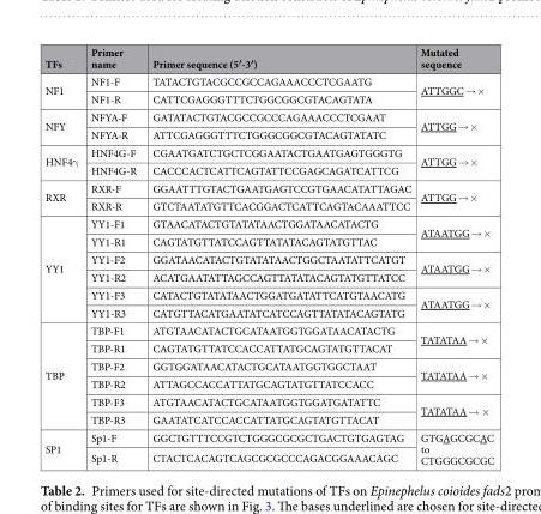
<table><thead><tr><td>TFs</td><td>Primer name</td><td>Primer sequence (5′-3′)</td><td>Mutated sequence</td></tr></thead><tbody><tr><td rowspan="2">NF1</td><td>NF1-F</td><td>TATACTGTACGCCGCCAGAAACCCTCGAATG</td><td rowspan="2">ATTGGC → ×</td></tr><tr><td>NF1-R</td><td>CATTCGAGGGTTTCTGGCGGCGTACAGTATA</td></tr><tr><td rowspan="2">NFY</td><td>NFYA-F</td><td>GATATACTGTACGCCGCCCAGAAACCCTCGAAT</td><td rowspan="2">ATTGG → ×</td></tr><tr><td>NFYA-R</td><td>ATTCGAGGGTTTCTGGGCGGCGTACAGTATATC</td></tr><tr><td rowspan="2">HNF4γ</td><td>HNF4G-F</td><td>CGAATGATCTGCTCGGAATACTGAATGAGTGGGTG</td><td rowspan="2">ATTGG → ×</td></tr><tr><td>HNF4G-R</td><td>CACCCACTCATTCAGTATTCCGAGCAGATCATTCG</td></tr><tr><td rowspan="2">RXR</td><td>RXR-F</td><td>GGAATTTGTACTGAATGAGTCCGTGAACATATTAGAC</td><td rowspan="2">ATTGG → ×</td></tr><tr><td>RXR-R</td><td>GTCTAATATGTTCACGGACTCATTCAGTACAAATTCC</td></tr><tr><td rowspan="6">YY1</td><td>YY1-F1</td><td>GTAACATACTGTATATAACTGGATAACATACTG</td><td rowspan="2">ATAATGG → ×</td></tr><tr><td>YY1-R1</td><td>CAGTATGTTATCCAGTTATATACAGTATGTTAC</td></tr><tr><td>YY1-F2</td><td>GGATAACATACTGTATATAACTGGCTAATATTCATGT</td><td rowspan="2">ATAATGG → ×</td></tr><tr><td>YY1-R2</td><td>ACATGAATATTAGCCAGTTATATACAGTATGTTATCC</td></tr><tr><td>YY1-F3</td><td>CATACTGTATATAACTGGATGATATTCATGTAACATG</td><td rowspan="2">ATAATGG → ×</td></tr><tr><td>YY1-R3</td><td>CATGTTACATGAATATCATCCAGTTATATACAGTATG</td></tr><tr><td rowspan="6">TBP</td><td>TBP-F1</td><td>ATGTAACATACTGCATAATGGTGGATAACATACTG</td><td rowspan="2">TATATAA → ×</td></tr><tr><td>TBP-R1</td><td>CAGTATGTTATCCACCATTATGCAGTATGTTACAT</td></tr><tr><td>TBP-F2</td><td>GGTGGATAACATACTGCATAATGGTGGCTAAT</td><td rowspan="2">TATATAA → ×</td></tr><tr><td>TBP-R2</td><td>ATTAGCCACCATTATGCAGTATGTTATCCACC</td></tr><tr><td>TBP-F3</td><td>ATGTAACATACTGCATAATGGTGGATGATATTC</td><td rowspan="2">TATATAA → ×</td></tr><tr><td>TBP-R3</td><td>GAATATCATCCACCATTATGCAGTATGTTACAT</td></tr><tr><td rowspan="2">SP1</td><td>Sp1-F</td><td>GGCTGTTTCCGTCTGGGCGCGCTGACTGTGAGTAG</td><td rowspan="2">GTGAGCGCAC to CTGGGCGCGC</td></tr><tr><td>Sp1-R</td><td>CTACTCACAGTCAGCGCGCCCAGACGGAAACAGC</td></tr></tbody></table>